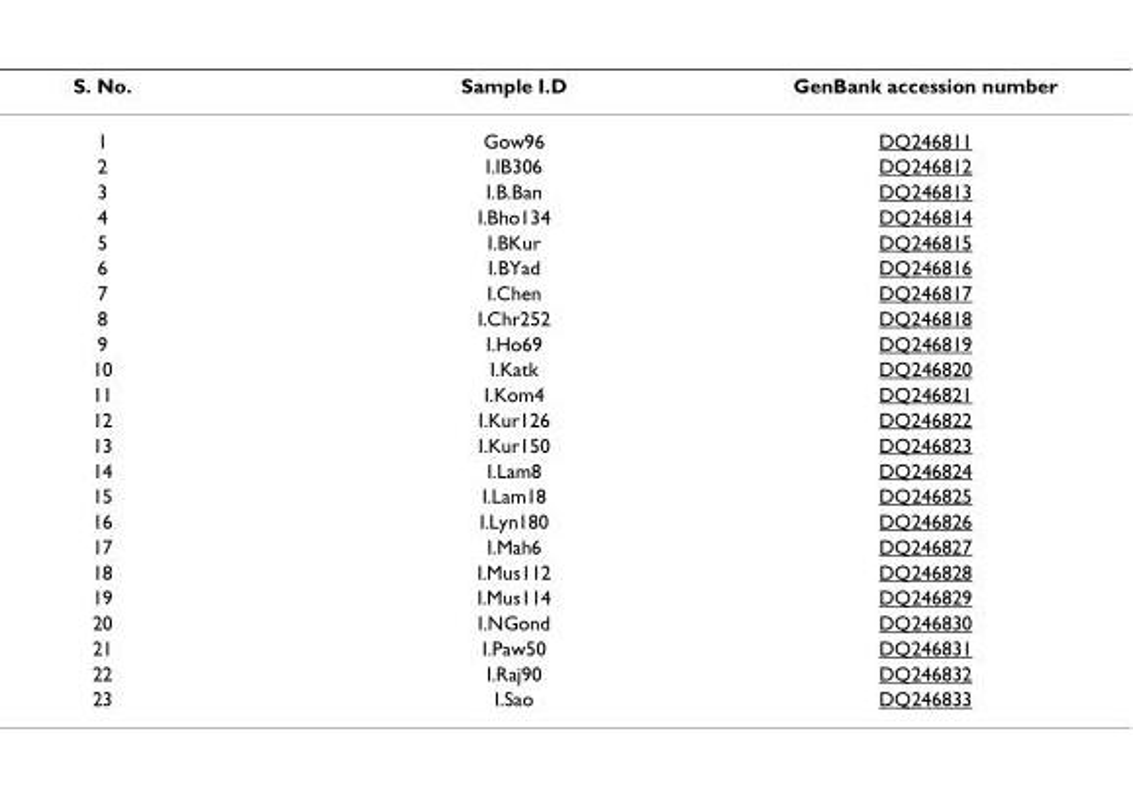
<table><thead><tr><td>S. No.</td><td>Sample I.D</td><td>GenBank accession number</td></tr></thead><tbody><tr><td>1</td><td>Gow96</td><td>DQ246811</td></tr><tr><td>2</td><td>I.IB306</td><td>DQ246812</td></tr><tr><td>3</td><td>I.B.Ban</td><td>DQ246813</td></tr><tr><td>4</td><td>I.Bho134</td><td>DQ246814</td></tr><tr><td>5</td><td>I.BKur</td><td>DQ246815</td></tr><tr><td>6</td><td>I.BYad</td><td>DQ246816</td></tr><tr><td>7</td><td>I.Chen</td><td>DQ246817</td></tr><tr><td>8</td><td>I.Chr252</td><td>DQ246818</td></tr><tr><td>9</td><td>I.Ho69</td><td>DQ246819</td></tr><tr><td>10</td><td>I.Katk</td><td>DQ246820</td></tr><tr><td>11</td><td>I.Kom4</td><td>DQ246821</td></tr><tr><td>12</td><td>I.Kur126</td><td>DQ246822</td></tr><tr><td>13</td><td>I.Kur150</td><td>DQ246823</td></tr><tr><td>14</td><td>I.Lam8</td><td>DQ246824</td></tr><tr><td>15</td><td>I.Lam18</td><td>DQ246825</td></tr><tr><td>16</td><td>I.Lyn180</td><td>DQ246826</td></tr><tr><td>17</td><td>I.Mah6</td><td>DQ246827</td></tr><tr><td>18</td><td>I.Mus112</td><td>DQ246828</td></tr><tr><td>19</td><td>I.Mus114</td><td>DQ246829</td></tr><tr><td>20</td><td>I.NGond</td><td>DQ246830</td></tr><tr><td>21</td><td>I.Paw50</td><td>DQ246831</td></tr><tr><td>22</td><td>I.Raj90</td><td>DQ246832</td></tr><tr><td>23</td><td>I.Sao</td><td>DQ246833</td></tr></tbody></table>